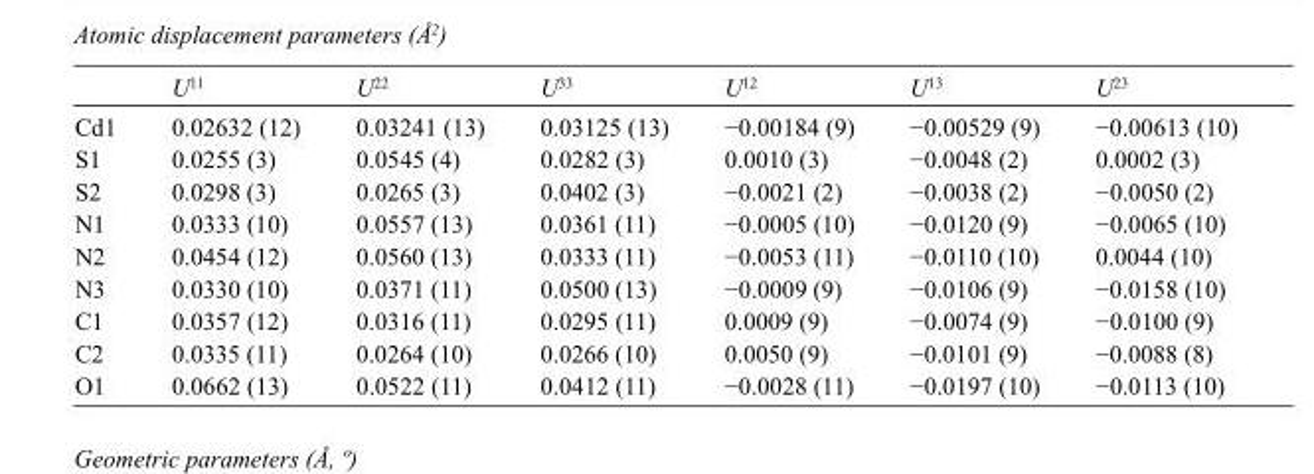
<table><thead><tr><td></td><td>U<sup>11</sup></td><td>U<sup>22</sup></td><td>U<sup>33</sup></td><td>U<sup>12</sup></td><td>U<sup>13</sup></td><td>U<sup>23</sup></td></tr></thead><tbody><tr><td>Cd1</td><td>0.02632 (12)</td><td>0.03241 (13)</td><td>0.03125 (13)</td><td>−0.00184 (9)</td><td>−0.00529 (9)</td><td>−0.00613 (10)</td></tr><tr><td>S1</td><td>0.0255 (3)</td><td>0.0545 (4)</td><td>0.0282 (3)</td><td>0.0010 (3)</td><td>−0.0048 (2)</td><td>0.0002 (3)</td></tr><tr><td>S2</td><td>0.0298 (3)</td><td>0.0265 (3)</td><td>0.0402 (3)</td><td>−0.0021 (2)</td><td>−0.0038 (2)</td><td>−0.0050 (2)</td></tr><tr><td>N1</td><td>0.0333 (10)</td><td>0.0557 (13)</td><td>0.0361 (11)</td><td>−0.0005 (10)</td><td>−0.0120 (9)</td><td>−0.0065 (10)</td></tr><tr><td>N2</td><td>0.0454 (12)</td><td>0.0560 (13)</td><td>0.0333 (11)</td><td>−0.0053 (11)</td><td>−0.0110 (10)</td><td>0.0044 (10)</td></tr><tr><td>N3</td><td>0.0330 (10)</td><td>0.0371 (11)</td><td>0.0500 (13)</td><td>−0.0009 (9)</td><td>−0.0106 (9)</td><td>−0.0158 (10)</td></tr><tr><td>C1</td><td>0.0357 (12)</td><td>0.0316 (11)</td><td>0.0295 (11)</td><td>0.0009 (9)</td><td>−0.0074 (9)</td><td>−0.0100 (9)</td></tr><tr><td>C2</td><td>0.0335 (11)</td><td>0.0264 (10)</td><td>0.0266 (10)</td><td>0.0050 (9)</td><td>−0.0101 (9)</td><td>−0.0088 (8)</td></tr><tr><td>O1</td><td>0.0662 (13)</td><td>0.0522 (11)</td><td>0.0412 (11)</td><td>−0.0028 (11)</td><td>−0.0197 (10)</td><td>−0.0113 (10)</td></tr></tbody></table>